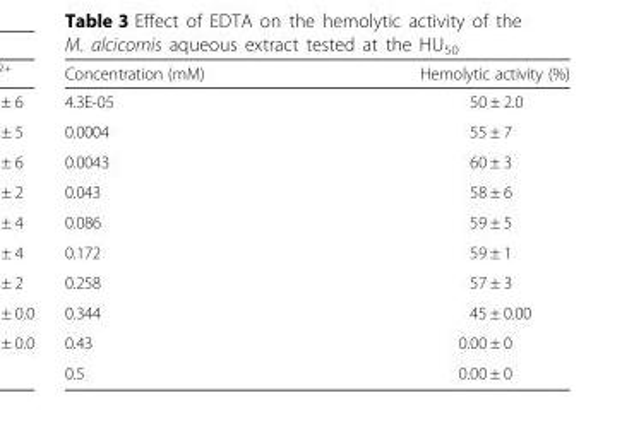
<table><thead><tr><td>Concentration (mM)</td><td>Hemolytic activity (%)</td></tr></thead><tbody><tr><td>4.3E-05</td><td>50 ± 2.0</td></tr><tr><td>0.0004</td><td>55 ± 7</td></tr><tr><td>0.0043</td><td>60 ± 3</td></tr><tr><td>0.043</td><td>58 ± 6</td></tr><tr><td>0.086</td><td>59 ± 5</td></tr><tr><td>0.172</td><td>59 ± 1</td></tr><tr><td>0.258</td><td>57 ± 3</td></tr><tr><td>0.344</td><td>45 ± 0.00</td></tr><tr><td>0.43</td><td>0.00 ± 0</td></tr><tr><td>0.5</td><td>0.00 ± 0</td></tr></tbody></table>